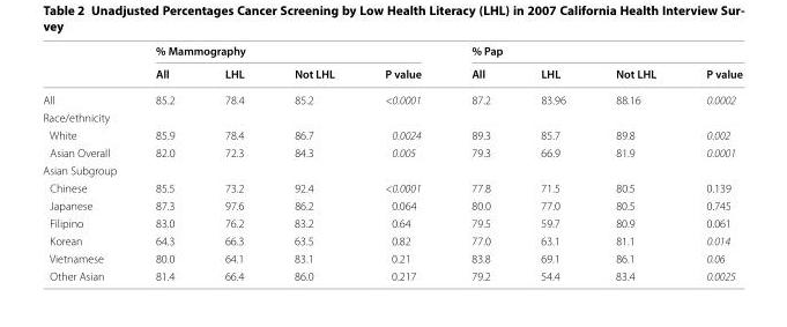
<table><thead><tr><td rowspan="2"></td><td colspan="4">% Mammography</td><td colspan="4">% Pap</td></tr><tr><td>All</td><td>LHL</td><td>Not LHL</td><td>P value</td><td>All</td><td>LHL</td><td>Not LHL</td><td>P value</td></tr></thead><tbody><tr><td>All</td><td>85.2</td><td>78.4</td><td>85.2</td><td>&lt;0.0001</td><td>87.2</td><td>83.96</td><td>88.16</td><td>0.0002</td></tr><tr><td colspan="9">Race/ethnicity</td></tr><tr><td>White</td><td>85.9</td><td>78.4</td><td>86.7</td><td>0.0024</td><td>89.3</td><td>85.7</td><td>89.8</td><td>0.002</td></tr><tr><td>Asian Overall</td><td>82.0</td><td>72.3</td><td>84.3</td><td>0.005</td><td>79.3</td><td>66.9</td><td>81.9</td><td>0.0001</td></tr><tr><td colspan="9">Asian Subgroup</td></tr><tr><td>Chinese</td><td>85.5</td><td>73.2</td><td>92.4</td><td>&lt;0.0001</td><td>77.8</td><td>71.5</td><td>80.5</td><td>0.139</td></tr><tr><td>Japanese</td><td>87.3</td><td>97.6</td><td>86.2</td><td>0.064</td><td>80.0</td><td>77.0</td><td>80.5</td><td>0.745</td></tr><tr><td>Filipino</td><td>83.0</td><td>76.2</td><td>83.2</td><td>0.64</td><td>79.5</td><td>59.7</td><td>80.9</td><td>0.061</td></tr><tr><td>Korean</td><td>64.3</td><td>66.3</td><td>63.5</td><td>0.82</td><td>77.0</td><td>63.1</td><td>81.1</td><td>0.014</td></tr><tr><td>Vietnamese</td><td>80.0</td><td>64.1</td><td>83.1</td><td>0.21</td><td>83.8</td><td>69.1</td><td>86.1</td><td>0.06</td></tr><tr><td>Other Asian</td><td>81.4</td><td>66.4</td><td>86.0</td><td>0.217</td><td>79.2</td><td>54.4</td><td>83.4</td><td>0.0025</td></tr></tbody></table>